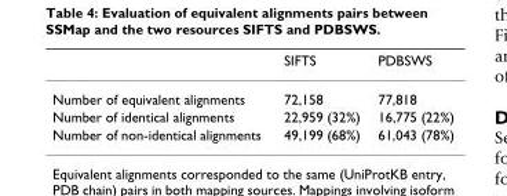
<table><thead><tr><td></td><td>SIFTS</td><td>PDBSWS</td></tr></thead><tbody><tr><td>Number of equivalent alignments</td><td>72,158</td><td>77,818</td></tr><tr><td>Number of identical alignments</td><td>22,959 (32%)</td><td>16,775 (22%)</td></tr><tr><td>Number of non-identical alignments</td><td>49,199 (68%)</td><td>61,043 (78%)</td></tr></tbody></table>